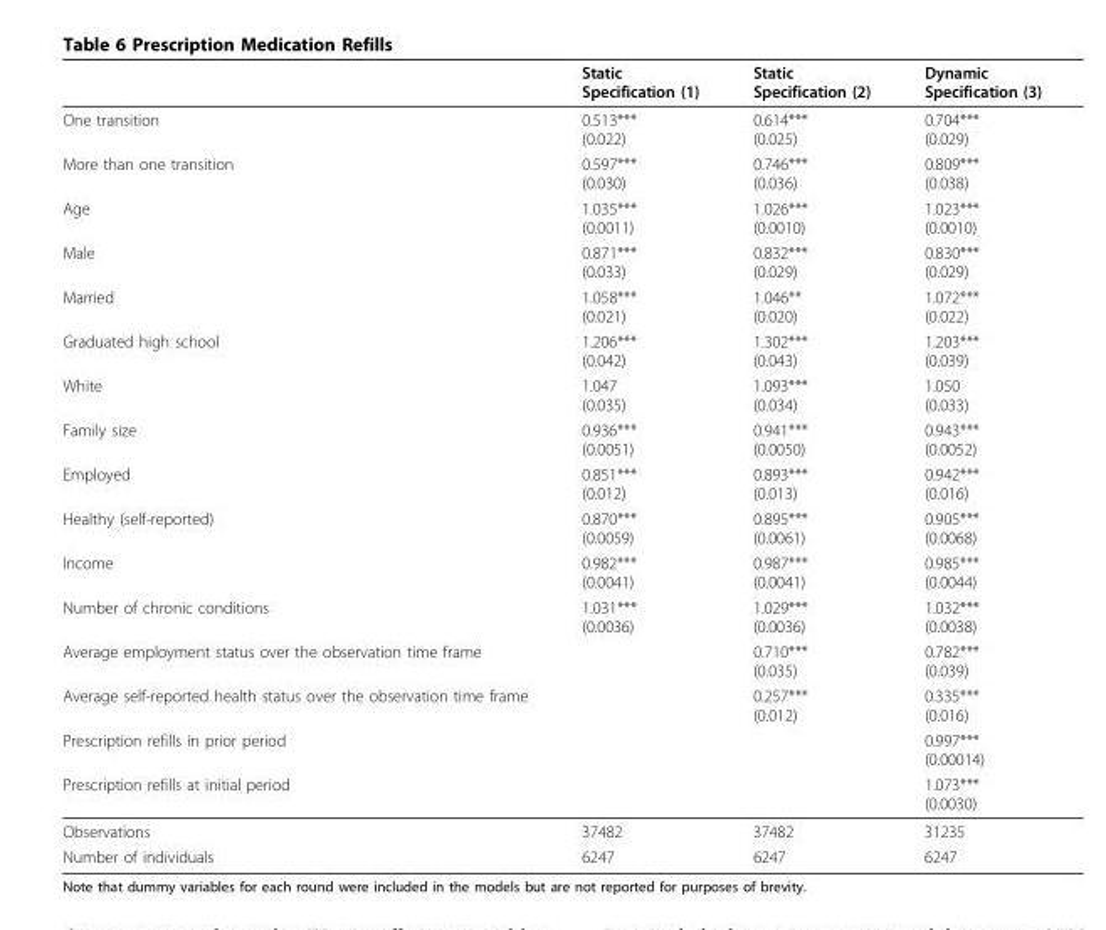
<table><thead><tr><td></td><td>Static Specification (1)</td><td>Static Specification (2)</td><td>Dynamic Specification (3)</td></tr></thead><tbody><tr><td>One transition</td><td>0.513*** (0.022)</td><td>0.614*** (0.025)</td><td>0.704*** (0.029)</td></tr><tr><td>More than one transition</td><td>0.597*** (0.030)</td><td>0.746*** (0.036)</td><td>0.809*** (0.038)</td></tr><tr><td>Age</td><td>1.035*** (0.0011)</td><td>1.026*** (0.0010)</td><td>1.023*** (0.0010)</td></tr><tr><td>Male</td><td>0.871*** (0.033)</td><td>0.832*** (0.029)</td><td>0.830*** (0.029)</td></tr><tr><td>Married</td><td>1.058*** (0.021)</td><td>1.046** (0.020)</td><td>1.072*** (0.022)</td></tr><tr><td>Graduated high school</td><td>1.206*** (0.042)</td><td>1.302*** (0.043)</td><td>1.203*** (0.039)</td></tr><tr><td>White</td><td>1.047 (0.035)</td><td>1.093*** (0.034)</td><td>1.050 (0.033)</td></tr><tr><td>Family size</td><td>0.936*** (0.0051)</td><td>0.941*** (0.0050)</td><td>0.943*** (0.0052)</td></tr><tr><td>Employed</td><td>0.851*** (0.012)</td><td>0.893*** (0.013)</td><td>0.942*** (0.016)</td></tr><tr><td>Healthy (self-reported)</td><td>0.870*** (0.0059)</td><td>0.895*** (0.0061)</td><td>0.905*** (0.0068)</td></tr><tr><td>Income</td><td>0.982*** (0.0041)</td><td>0.987*** (0.0041)</td><td>0.985*** (0.0044)</td></tr><tr><td>Number of chronic conditions</td><td>1.031*** (0.0036)</td><td>1.029*** (0.0036)</td><td>1.032*** (0.0038)</td></tr><tr><td>Average employment status over the observation time frame</td><td></td><td>0.710*** (0.035)</td><td>0.782*** (0.039)</td></tr><tr><td>Average self-reported health status over the observation time frame</td><td></td><td>0.257*** (0.012)</td><td>0.335*** (0.016)</td></tr><tr><td>Prescription refills in prior period</td><td></td><td></td><td>0.997*** (0.00014)</td></tr><tr><td>Prescription refills at initial period</td><td></td><td></td><td>1.073*** (0.0030)</td></tr><tr><td>Observations</td><td>37482</td><td>37482</td><td>31235</td></tr><tr><td>Number of individuals</td><td>6247</td><td>6247</td><td>6247</td></tr></tbody></table>